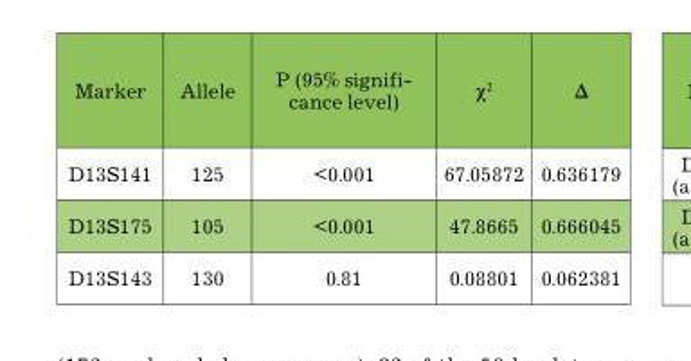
<table><thead><tr><td>Marker</td><td>Allele</td><td>Р (95% signifi- cance level)</td><td>χ<sup>2</sup></td><td>Δ</td></tr></thead><tbody><tr><td>D13S141</td><td>125</td><td>&lt;0.001</td><td>67.05872</td><td>0.636179</td></tr><tr><td>D13S175</td><td>105</td><td>&lt;0.001</td><td>47.8665</td><td>0.666045</td></tr><tr><td>D13S143</td><td>130</td><td>0.81</td><td>0.08801</td><td>0.062381</td></tr></tbody></table>